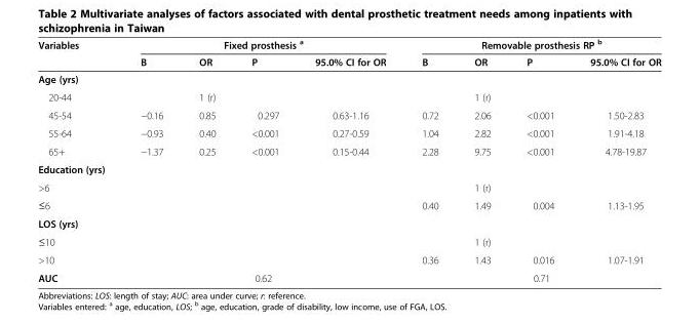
<table><thead><tr><td rowspan="2">Variables</td><td colspan="4">Fixed prosthesis <sup>a</sup></td><td colspan="4">Removable prosthesis RP <sup>b</sup></td></tr><tr><td>B</td><td>OR</td><td>P</td><td>95.0% CI for OR</td><td>B</td><td>OR</td><td>P</td><td>95.0% CI for OR</td></tr></thead><tbody><tr><td colspan="9">Age (yrs)</td></tr><tr><td>20-44</td><td></td><td>1 (r)</td><td></td><td></td><td></td><td>1 (r)</td><td></td><td></td></tr><tr><td>45-54</td><td>−0.16</td><td>0.85</td><td>0.297</td><td>0.63-1.16</td><td>0.72</td><td>2.06</td><td>&lt;0.001</td><td>1.50-2.83</td></tr><tr><td>55-64</td><td>−0.93</td><td>0.40</td><td>&lt;0.001</td><td>0.27-0.59</td><td>1.04</td><td>2.82</td><td>&lt;0.001</td><td>1.91-4.18</td></tr><tr><td>65+</td><td>−1.37</td><td>0.25</td><td>&lt;0.001</td><td>0.15-0.44</td><td>2.28</td><td>9.75</td><td>&lt;0.001</td><td>4.78-19.87</td></tr><tr><td colspan="9">Education (yrs)</td></tr><tr><td>&gt;6</td><td></td><td></td><td></td><td></td><td></td><td>1 (r)</td><td></td><td></td></tr><tr><td>≤6</td><td></td><td></td><td></td><td></td><td>0.40</td><td>1.49</td><td>0.004</td><td>1.13-1.95</td></tr><tr><td colspan="9">LOS (yrs)</td></tr><tr><td>≤10</td><td></td><td></td><td></td><td></td><td></td><td>1 (r)</td><td></td><td></td></tr><tr><td>&gt;10</td><td></td><td></td><td></td><td></td><td>0.36</td><td>1.43</td><td>0.016</td><td>1.07-1.91</td></tr><tr><td>AUC</td><td></td><td></td><td colspan="4">0.62</td><td colspan="2">0.71</td></tr></tbody></table>